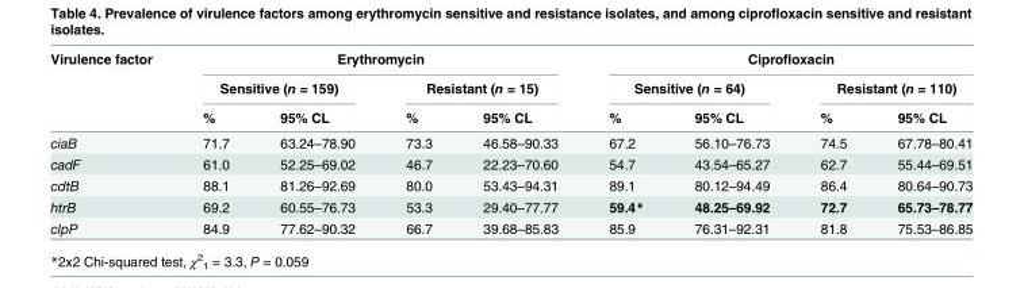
<table><thead><tr><td rowspan="3">Virulence factor</td><td colspan="4">Erythromycin</td><td colspan="4">Ciprofloxacin</td></tr><tr><td colspan="2">Sensitive (n = 159)</td><td colspan="2">Resistant (n = 15)</td><td colspan="2">Sensitive (n = 64)</td><td colspan="2">Resistant (n = 110)</td></tr><tr><td>%</td><td>95% CL</td><td>%</td><td>95% CL</td><td>%</td><td>95% CL</td><td>%</td><td>95% CL</td></tr></thead><tbody><tr><td>ciaB</td><td>71.7</td><td>63.24–78.90</td><td>73.3</td><td>46.58–90.33</td><td>67.2</td><td>56.10–76.73</td><td>74.5</td><td>67.78–80.41</td></tr><tr><td>cadF</td><td>61.0</td><td>52.25–69.02</td><td>46.7</td><td>22.23–70.60</td><td>54.7</td><td>43.54–65.27</td><td>62.7</td><td>55.44–69.51</td></tr><tr><td>cdtB</td><td>88.1</td><td>81.26–92.69</td><td>80.0</td><td>53.43–94.31</td><td>89.1</td><td>80.12–94.49</td><td>86.4</td><td>80.64–90.73</td></tr><tr><td>htrB</td><td>69.2</td><td>60.55–76.73</td><td>53.3</td><td>29.40–77.77</td><td>59.4*</td><td>48.25–69.92</td><td>72.7</td><td>65.73–78.77</td></tr><tr><td>clpP</td><td>84.9</td><td>77.62–90.32</td><td>66.7</td><td>39.68–85.83</td><td>85.9</td><td>76.31–92.31</td><td>81.8</td><td>75.53–86.85</td></tr></tbody></table>